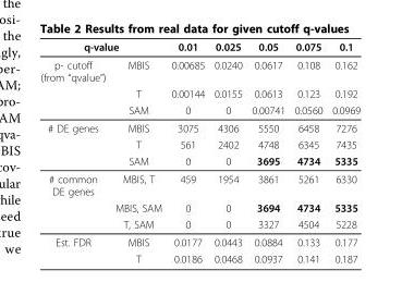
<table><thead><tr><td colspan="2">q-value</td><td rowspan="2">0.01 0.00685</td><td rowspan="2">0.025 0.0240</td><td rowspan="2">0.05 0.0617</td><td rowspan="2">0.075 0.108</td><td rowspan="2">0.1 0.162</td></tr><tr><td>p- cutoff (from “qvalue”)</td><td>MBIS</td></tr></thead><tbody><tr><td></td><td>T</td><td>0.00144</td><td>0.0155</td><td>0.0613</td><td>0.123</td><td>0.192</td></tr><tr><td></td><td>SAM</td><td>0</td><td>0</td><td>0.00741</td><td>0.0560</td><td>0.0969</td></tr><tr><td rowspan="3"># DE genes</td><td>MBIS</td><td>3075</td><td>4306</td><td>5550</td><td>6458</td><td>7276</td></tr><tr><td>T</td><td>561</td><td>2402</td><td>4748</td><td>6345</td><td>7435</td></tr><tr><td>SAM</td><td>0</td><td>0</td><td>3695</td><td>4734</td><td>5335</td></tr><tr><td rowspan="3"># common DE genes</td><td>MBIS, T</td><td>459</td><td>1954</td><td>3861</td><td>5261</td><td>6330</td></tr><tr><td>MBIS, SAM</td><td>0</td><td>0</td><td>3694</td><td>4734</td><td>5335</td></tr><tr><td>T, SAM</td><td>0</td><td>0</td><td>3327</td><td>4504</td><td>5228</td></tr><tr><td rowspan="2">Est. FDR</td><td>MBIS</td><td>0.0177</td><td>0.0443</td><td>0.0884</td><td>0.133</td><td>0.177</td></tr><tr><td>T</td><td>0.0186</td><td>0.0468</td><td>0.0937</td><td>0.141</td><td>0.187</td></tr></tbody></table>